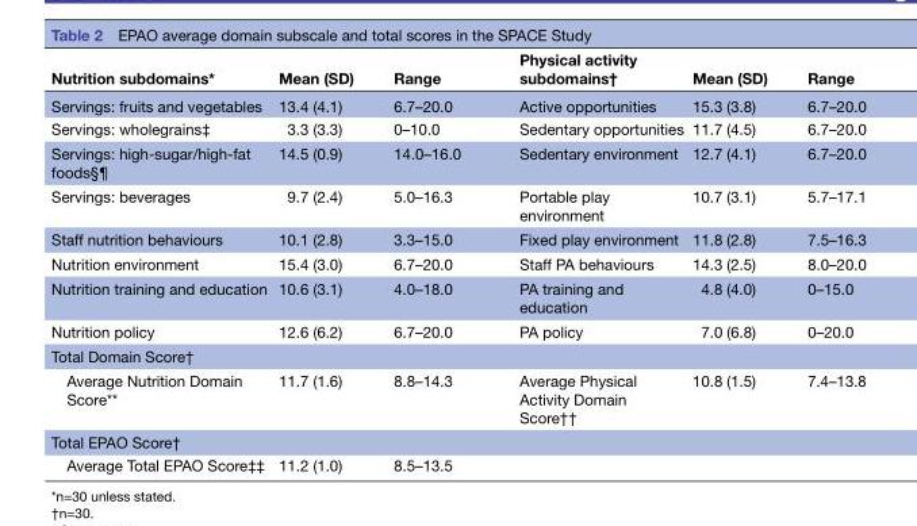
<table><thead><tr><td>Nutrition subdomains*</td><td>Mean (SD)</td><td>Range</td><td>Physical activity subdomains†</td><td>Mean (SD)</td><td>Range</td></tr></thead><tbody><tr><td>Servings: fruits and vegetables</td><td>13.4 (4.1)</td><td>6.7–20.0</td><td>Active opportunities</td><td>15.3 (3.8)</td><td>6.7–20.0</td></tr><tr><td>Servings: wholegrains‡</td><td>3.3 (3.3)</td><td>0–10.0</td><td>Sedentary opportunities</td><td>11.7 (4.5)</td><td>6.7–20.0</td></tr><tr><td>Servings: high-sugar/high-fat foods§¶</td><td>14.5 (0.9)</td><td>14.0–16.0</td><td>Sedentary environment</td><td>12.7 (4.1)</td><td>6.7–20.0</td></tr><tr><td>Servings: beverages</td><td>9.7 (2.4)</td><td>5.0–16.3</td><td>Portable play environment</td><td>10.7 (3.1)</td><td>5.7–17.1</td></tr><tr><td>Staff nutrition behaviours</td><td>10.1 (2.8)</td><td>3.3–15.0</td><td>Fixed play environment</td><td>11.8 (2.8)</td><td>7.5–16.3</td></tr><tr><td>Nutrition environment</td><td>15.4 (3.0)</td><td>6.7–20.0</td><td>Staff PA behaviours</td><td>14.3 (2.5)</td><td>8.0–20.0</td></tr><tr><td>Nutrition training and education</td><td>10.6 (3.1)</td><td>4.0–18.0</td><td>PA training and education</td><td>4.8 (4.0)</td><td>0–15.0</td></tr><tr><td>Nutrition policy</td><td>12.6 (6.2)</td><td>6.7–20.0</td><td>PA policy</td><td>7.0 (6.8)</td><td>0–20.0</td></tr><tr><td colspan="6">Total Domain Score†</td></tr><tr><td>Average Nutrition Domain Score**</td><td>11.7 (1.6)</td><td>8.8–14.3</td><td>Average Physical Activity Domain Score††</td><td>10.8 (1.5)</td><td>7.4–13.8</td></tr><tr><td colspan="6">Total EPAO Score†</td></tr><tr><td>Average Total EPAO Score‡‡</td><td>11.2 (1.0)</td><td>8.5–13.5</td><td></td><td></td><td></td></tr></tbody></table>